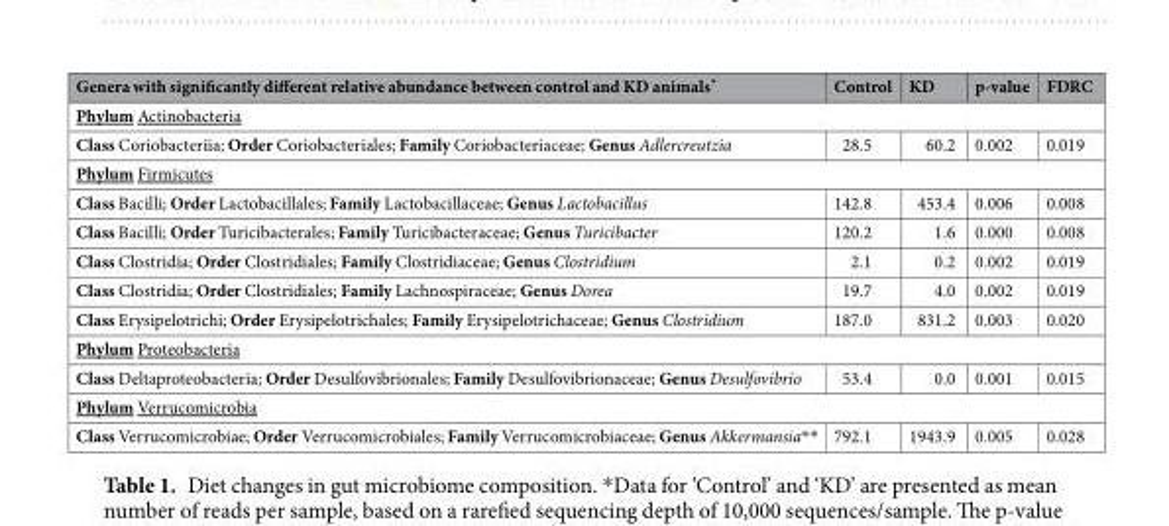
<table><thead><tr><td>Genera with significantly different relative abundance between control and KD animals*</td><td>Control</td><td>KD</td><td>p-value</td><td>FDRC</td></tr></thead><tbody><tr><td colspan="5">Phylum Actinobacteria</td></tr><tr><td>Class Coriobacteriia; Order Coriobacteriales; Family Coriobacteriaceae; Genus Adlercreutzia</td><td>28.5</td><td>60.2</td><td>0.002</td><td>0.019</td></tr><tr><td colspan="5">Phylum Firmicutes</td></tr><tr><td>Class Bacilli; Order Lactobacillales; Family Lactobacillaceae; Genus Lactobacillus</td><td>142.8</td><td>453.4</td><td>0.006</td><td>0.008</td></tr><tr><td>Class Bacilli; Order Turicibacterales; Family Turicibacteraceae; Genus Turicibacter</td><td>120.2</td><td>1.6</td><td>0.000</td><td>0.008</td></tr><tr><td>Class Clostridia; Order Clostridiales; Family Clostridiaceae; Genus Clostridium</td><td>2.1</td><td>0.2</td><td>0.002</td><td>0.019</td></tr><tr><td>Class Clostridia; Order Clostridiales; Family Lachnospiraceae; Genus Dorea</td><td>19.7</td><td>4.0</td><td>0.002</td><td>0.019</td></tr><tr><td>Class Erysipelotrichi; Order Erysipelotrichales; Family Erysipelotrichaceae; Genus Clostridium</td><td>187.0</td><td>831.2</td><td>0.003</td><td>0.020</td></tr><tr><td colspan="5">Phylum Proteobacteria</td></tr><tr><td>Class Deltaproteobacteria; Order Desulfovibrionales; Family Desulfovibrionaceae; Genus Desulfovibrio</td><td>53.4</td><td>0.0</td><td>0.001</td><td>0.015</td></tr><tr><td colspan="5">Phylum Verrucomicrobia</td></tr><tr><td>Class Verrucomicrobiae; Order Verrucomicrobiales; Family Verrucomicrobiaceae; Genus Akkermansia**</td><td>792.1</td><td>1943.9</td><td>0.005</td><td>0.028</td></tr></tbody></table>